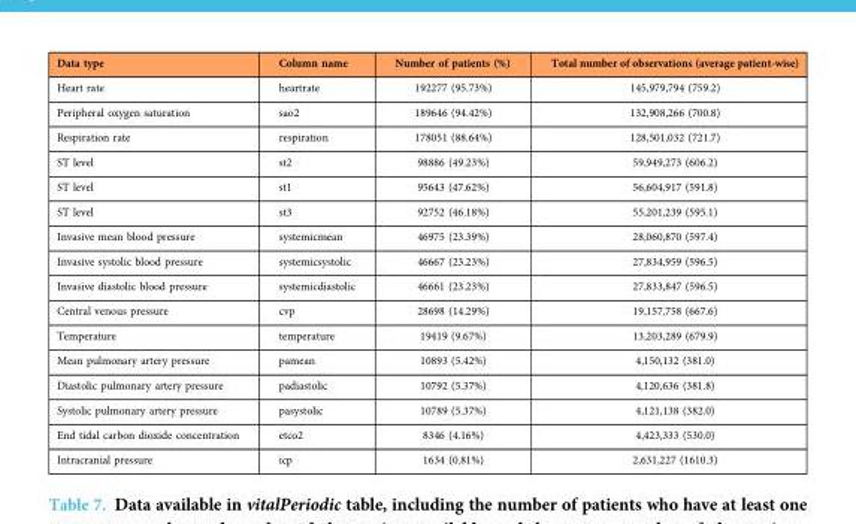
<table><thead><tr><td>Data type</td><td>Column name</td><td>Number of patients (%)</td><td>Total number of observations (average patient-wise)</td></tr></thead><tbody><tr><td>Heart rate</td><td>heartrate</td><td>192277 (95.73%)</td><td>145,979,794 (759.2)</td></tr><tr><td>Peripheral oxygen saturation</td><td>sao2</td><td>189646 (94.42%)</td><td>132,908,266 (700.8)</td></tr><tr><td>Respiration rate</td><td>respiration</td><td>178051 (88.64%)</td><td>128,501,032 (721.7)</td></tr><tr><td>ST level</td><td>st2</td><td>98886 (49.23%)</td><td>59,949,273 (606.2)</td></tr><tr><td>ST level</td><td>st1</td><td>95643 (47.62%)</td><td>56,604,917 (591.8)</td></tr><tr><td>ST level</td><td>st3</td><td>92752 (46.18%)</td><td>55,201,239 (595.1)</td></tr><tr><td>Invasive mean blood pressure</td><td>systemicmean</td><td>46975 (23.39%)</td><td>28,060,870 (597.4)</td></tr><tr><td>Invasive systolic blood pressure</td><td>systemicsystolic</td><td>46667 (23.23%)</td><td>27,834,959 (596.5)</td></tr><tr><td>Invasive diastolic blood pressure</td><td>systemicdiastolic</td><td>46661 (23.23%)</td><td>27,833,847 (596.5)</td></tr><tr><td>Central venous pressure</td><td>cvp</td><td>28698 (14.29%)</td><td>19,157,758 (667.6)</td></tr><tr><td>Temperature</td><td>temperature</td><td>19419 (9.67%)</td><td>13,203,289 (679.9)</td></tr><tr><td>Mean pulmonary artery pressure</td><td>pamean</td><td>10893 (5.42%)</td><td>4,150,132 (381.0)</td></tr><tr><td>Diastolic pulmonary artery pressure</td><td>padiastolic</td><td>10792 (5.37%)</td><td>4,120,636 (381.8)</td></tr><tr><td>Systolic pulmonary artery pressure</td><td>pasystolic</td><td>10789 (5.37%)</td><td>4,121,138 (382.0)</td></tr><tr><td>End tidal carbon dioxide concentration</td><td>etco2</td><td>8346 (4.16%)</td><td>4,423,333 (530.0)</td></tr><tr><td>Intracranial pressure</td><td>icp</td><td>1634 (0.81%)</td><td>2,631,227 (1610.3)</td></tr></tbody></table>